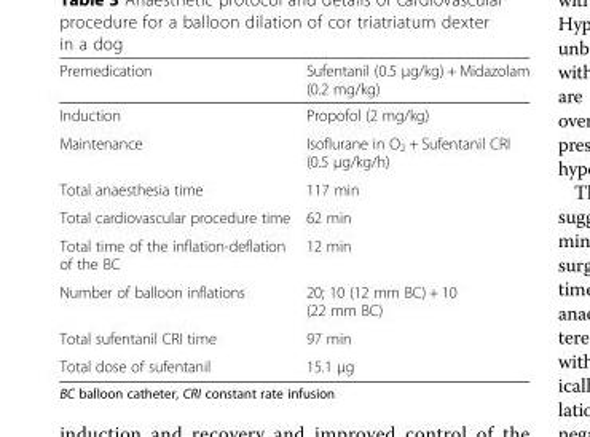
<table><thead><tr><td>Premedication</td><td>Sufentanil (0.5 μg/kg) + Midazolam (0.2 mg/kg)</td></tr></thead><tbody><tr><td>Induction</td><td>Propofol (2 mg/kg)</td></tr><tr><td>Maintenance</td><td>Isoflurane in O<sub>2</sub> + Sufentanil CRI (0.5 μg/kg/h)</td></tr><tr><td>Total anaesthesia time</td><td>117 min</td></tr><tr><td>Total cardiovascular procedure time</td><td>62 min</td></tr><tr><td>Total time of the inflation-deflation of the BC</td><td>12 min</td></tr><tr><td>Number of balloon inflations</td><td>20; 10 (12 mm BC) + 10 (22 mm BC)</td></tr><tr><td>Total sufentanil CRI time</td><td>97 min</td></tr><tr><td>Total dose of sufentanil</td><td>15.1 μg</td></tr></tbody></table>